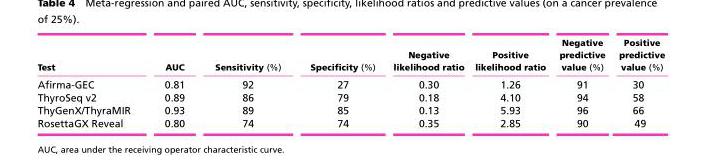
<table><thead><tr><td>Test</td><td>AUC</td><td>Sensitivity (%)</td><td>Specificity (%)</td><td>Negative likelihood ratio</td><td>Positive likelihood ratio</td><td>Negative predictive value (%)</td><td>Positive predictive value (%)</td></tr></thead><tbody><tr><td>Afirma-GEC</td><td>0.81</td><td>92</td><td>27</td><td>0.30</td><td>1.26</td><td>91</td><td>30</td></tr><tr><td>ThyroSeq v2</td><td>0.89</td><td>86</td><td>79</td><td>0.18</td><td>4.10</td><td>94</td><td>58</td></tr><tr><td>ThyGenX/ThyraMIR</td><td>0.93</td><td>89</td><td>85</td><td>0.13</td><td>5.93</td><td>96</td><td>66</td></tr><tr><td>RosettaGX Reveal</td><td>0.80</td><td>74</td><td>74</td><td>0.35</td><td>2.85</td><td>90</td><td>49</td></tr></tbody></table>